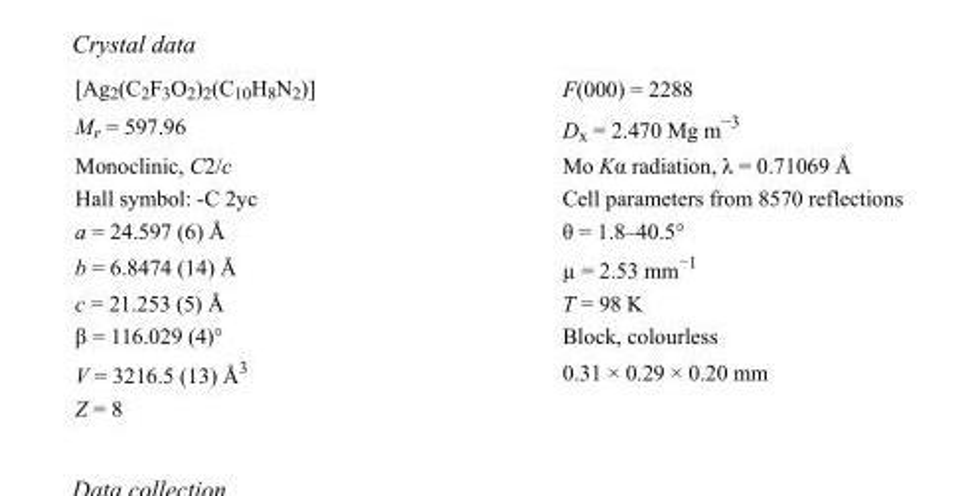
<table><tbody><tr><td>[Ag<sub>2</sub>(C<sub>2</sub>F<sub>3</sub>O<sub>2</sub>)<sub>2</sub>(C<sub>10</sub>H<sub>8</sub>N<sub>2</sub>)]</td><td>F(000) = 2288</td></tr><tr><td>M<sub>r</sub> = 597.96</td><td>D<sub>x</sub> = 2.470 Mg m<sup>−3</sup></td></tr><tr><td>Monoclinic, C2/c</td><td>Mo Kα radiation, λ = 0.71069 Å</td></tr><tr><td>Hall symbol: -C 2yc</td><td>Cell parameters from 8570 reflections</td></tr><tr><td>a = 24.597 (6) Å</td><td>θ = 1.8–40.5°</td></tr><tr><td>b = 6.8474 (14) Å</td><td>µ = 2.53 mm<sup>−1</sup></td></tr><tr><td>c = 21.253 (5) Å</td><td>T = 98 K</td></tr><tr><td>β = 116.029 (4)°</td><td>Block, colourless</td></tr><tr><td>V = 3216.5 (13) Å<sup>3</sup></td><td>0.31 × 0.29 × 0.20 mm</td></tr><tr><td>Z = 8</td><td></td></tr></tbody></table>